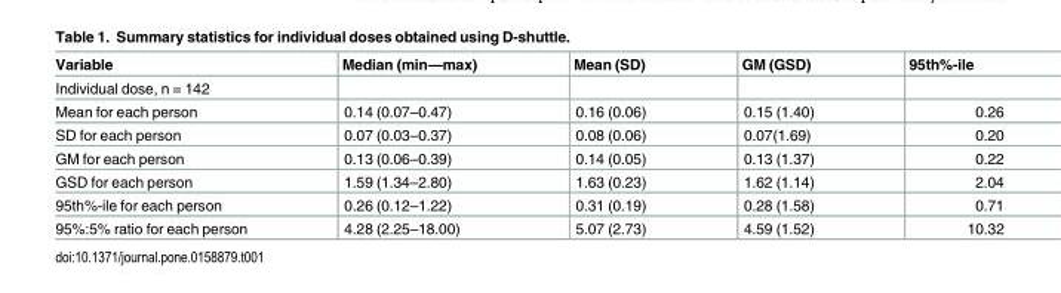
<table><thead><tr><td>Variable</td><td>Median (min—max)</td><td>Mean (SD)</td><td>GM (GSD)</td><td>95th%-ile</td></tr></thead><tbody><tr><td colspan="5">Individual dose, n = 142</td></tr><tr><td>Mean for each person</td><td>0.14 (0.07–0.47)</td><td>0.16 (0.06)</td><td>0.15 (1.40)</td><td>0.26</td></tr><tr><td>SD for each person</td><td>0.07 (0.03–0.37)</td><td>0.08 (0.06)</td><td>0.07(1.69)</td><td>0.20</td></tr><tr><td>GM for each person</td><td>0.13 (0.06–0.39)</td><td>0.14 (0.05)</td><td>0.13 (1.37)</td><td>0.22</td></tr><tr><td>GSD for each person</td><td>1.59 (1.34–2.80)</td><td>1.63 (0.23)</td><td>1.62 (1.14)</td><td>2.04</td></tr><tr><td>95th%-ile for each person</td><td>0.26 (0.12–1.22)</td><td>0.31 (0.19)</td><td>0.28 (1.58)</td><td>0.71</td></tr><tr><td>95%:5% ratio for each person</td><td>4.28 (2.25–18.00)</td><td>5.07 (2.73)</td><td>4.59 (1.52)</td><td>10.32</td></tr></tbody></table>